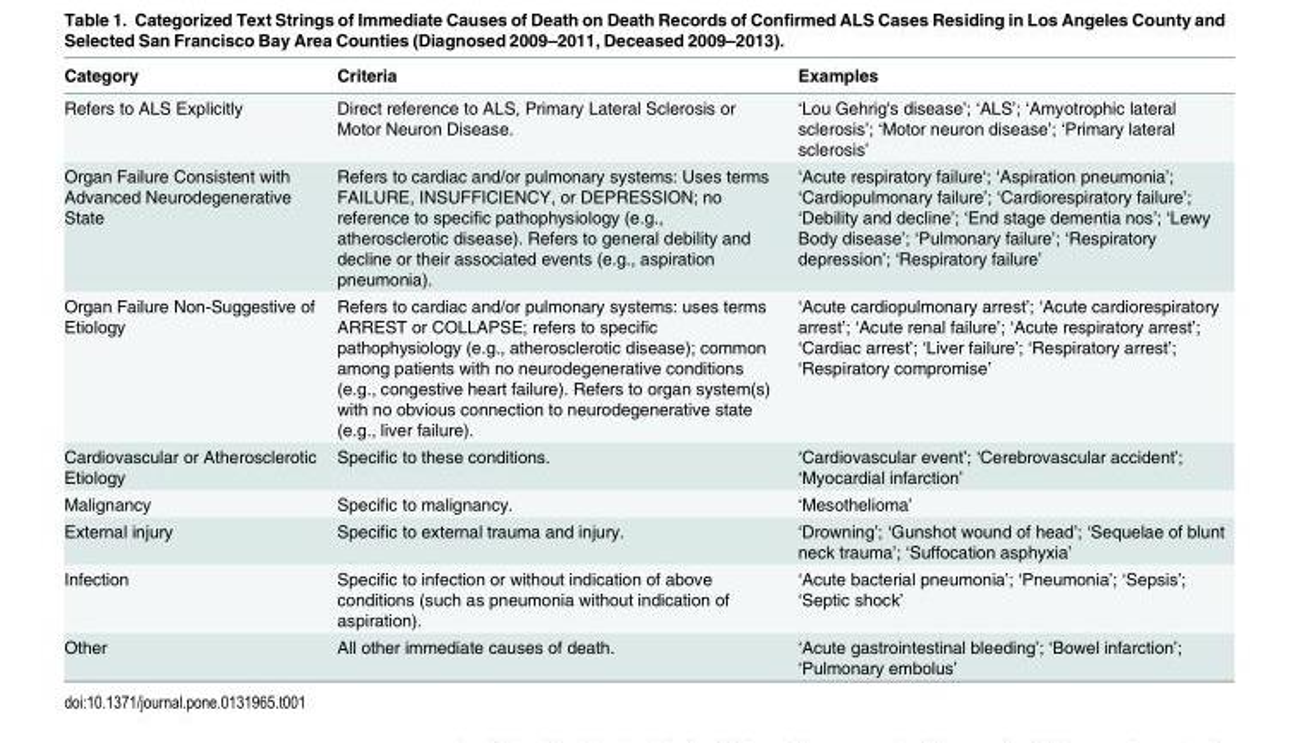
<table><thead><tr><td>Category</td><td>Criteria</td><td>Examples</td></tr></thead><tbody><tr><td>Refers to ALS Explicitly</td><td>Direct reference to ALS, Primary Lateral Sclerosis or Motor Neuron Disease.</td><td>‘Lou Gehrig&#x27;s disease’; ‘ALS’; ‘Amyotrophic lateral sclerosis’; ‘Motor neuron disease’; ‘Primary lateral sclerosis’</td></tr><tr><td>Organ Failure Consistent with Advanced Neurodegenerative State</td><td>Refers to cardiac and/or pulmonary systems: Uses terms FAILURE, INSUFFICIENCY, or DEPRESSION; no reference to specific pathophysiology (e.g., atherosclerotic disease). Refers to general debility and decline or their associated events (e.g., aspiration pneumonia).</td><td>‘Acute respiratory failure‘; ‘Aspiration pneumonia’; ‘Cardiopulmonary failure’; ‘Cardiorespiratory failure’; ‘Debility and decline’; ‘End stage dementia nos’; ‘Lewy Body disease’; ‘Pulmonary failure’; ‘Respiratory depression’; ‘Respiratory failure’</td></tr><tr><td>Organ Failure Non-Suggestive of Etiology</td><td>Refers to cardiac and/or pulmonary systems: uses terms ARREST or COLLAPSE; refers to specific pathophysiology (e.g., atherosclerotic disease); common among patients with no neurodegenerative conditions (e.g., congestive heart failure). Refers to organ system(s) with no obvious connection to neurodegenerative state (e.g., liver failure).</td><td>‘Acute cardiopulmonary arrest’; ‘Acute cardiorespiratory arrest’; ‘Acute renal failure’; ‘Acute respiratory arrest’; ‘Cardiac arrest’; ‘Liver failure’; ‘Respiratory arrest’; ‘Respiratory compromise’</td></tr><tr><td>Cardiovascular or Atherosclerotic Etiology</td><td>Specific to these conditions.</td><td>‘Cardiovascular event’; ‘Cerebrovascular accident’; ‘Myocardial infarction’</td></tr><tr><td>Malignancy</td><td>Specific to malignancy.</td><td>‘Mesothelioma’</td></tr><tr><td>External injury</td><td>Specific to external trauma and injury.</td><td>‘Drowning’; ‘Gunshot wound of head’; ‘Sequelae of blunt neck trauma’; ‘Suffocation asphyxia’</td></tr><tr><td>Infection</td><td>Specific to infection or without indication of above conditions (such as pneumonia without indication of aspiration).</td><td>‘Acute bacterial pneumonia’; ‘Pneumonia’; ‘Sepsis’; ‘Septic shock’</td></tr><tr><td>Other</td><td>All other immediate causes of death.</td><td>‘Acute gastrointestinal bleeding’; ‘Bowel infarction’; ‘Pulmonary embolus’</td></tr></tbody></table>